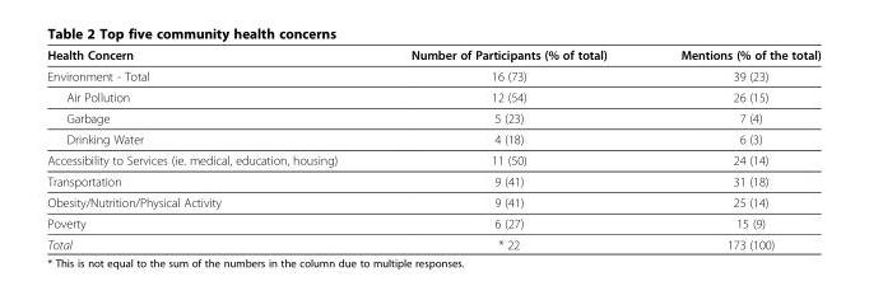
<table><thead><tr><td>Health Concern</td><td>Number of Participants (% of total)</td><td>Mentions (% of the total)</td></tr></thead><tbody><tr><td>Environment - Total</td><td>16 (73)</td><td>39 (23)</td></tr><tr><td>Air Pollution</td><td>12 (54)</td><td>26 (15)</td></tr><tr><td>Garbage</td><td>5 (23)</td><td>7 (4)</td></tr><tr><td>Drinking Water</td><td>4 (18)</td><td>6 (3)</td></tr><tr><td>Accessibility to Services (ie. medical, education, housing)</td><td>11 (50)</td><td>24 (14)</td></tr><tr><td>Transportation</td><td>9 (41)</td><td>31 (18)</td></tr><tr><td>Obesity/Nutrition/Physical Activity</td><td>9 (41)</td><td>25 (14)</td></tr><tr><td>Poverty</td><td>6 (27)</td><td>15 (9)</td></tr><tr><td>Total</td><td>* 22</td><td>173 (100)</td></tr></tbody></table>